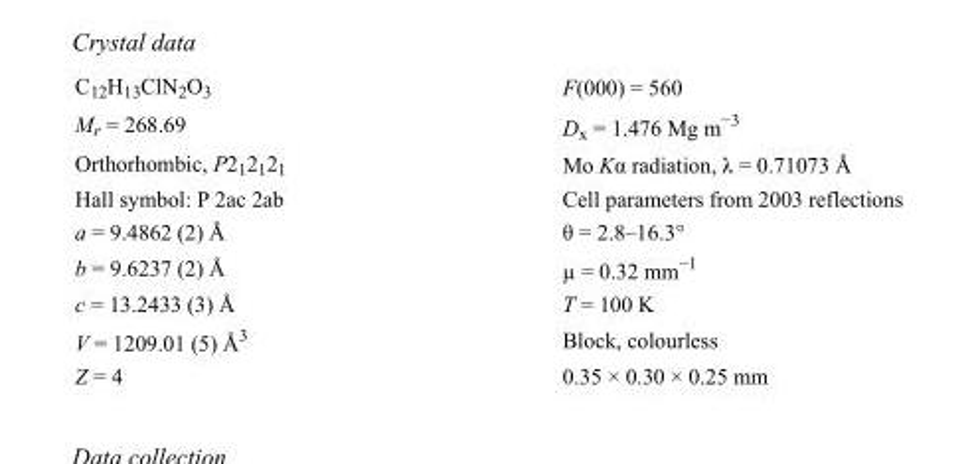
<table><tbody><tr><td>C<sub>12</sub>H<sub>13</sub>ClN<sub>2</sub>O<sub>3</sub></td><td>F(000) = 560</td></tr><tr><td>M<sub>r</sub> = 268.69</td><td>D<sub>x</sub> = 1.476 Mg m<sup>−3</sup></td></tr><tr><td>Orthorhombic, P2<sub>1</sub>2<sub>1</sub>2<sub>1</sub></td><td>Mo Kα radiation, λ = 0.71073 Å</td></tr><tr><td>Hall symbol: P 2ac 2ab</td><td>Cell parameters from 2003 reflections</td></tr><tr><td>a = 9.4862 (2) Å</td><td>θ = 2.8–16.3°</td></tr><tr><td>b = 9.6237 (2) Å</td><td>µ = 0.32 mm<sup>−1</sup></td></tr><tr><td>c = 13.2433 (3) Å</td><td>T = 100 K</td></tr><tr><td>V = 1209.01 (5) Å<sup>3</sup></td><td>Block, colourless</td></tr><tr><td>Z = 4</td><td>0.35 × 0.30 × 0.25 mm</td></tr></tbody></table>